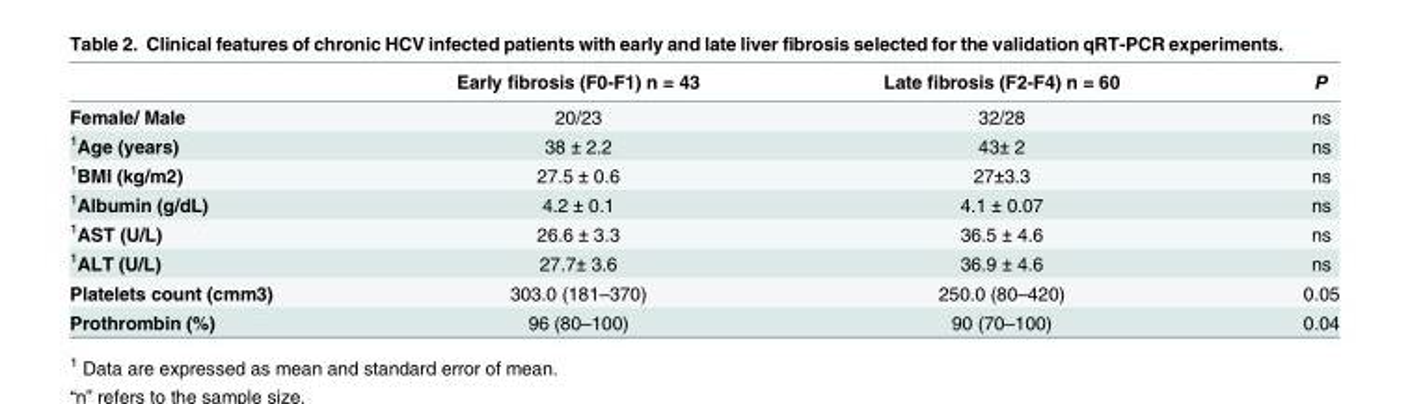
<table><thead><tr><td></td><td>Early fibrosis (F0-F1) n = 43</td><td>Late fibrosis (F2-F4) n = 60</td><td>P</td></tr></thead><tbody><tr><td>Female/ Male</td><td>20/23</td><td>32/28</td><td>ns</td></tr><tr><td><sup>1</sup>Age (years)</td><td>38 ± 2.2</td><td>43± 2</td><td>ns</td></tr><tr><td><sup>1</sup>BMI (kg/m2)</td><td>27.5 ± 0.6</td><td>27±3.3</td><td>ns</td></tr><tr><td><sup>1</sup>Albumin (g/dL)</td><td>4.2 ± 0.1</td><td>4.1 ± 0.07</td><td>ns</td></tr><tr><td><sup>1</sup>AST (U/L)</td><td>26.6 ± 3.3</td><td>36.5 ± 4.6</td><td>ns</td></tr><tr><td><sup>1</sup>ALT (U/L)</td><td>27.7± 3.6</td><td>36.9 ± 4.6</td><td>ns</td></tr><tr><td>Platelets count (cmm3)</td><td>303.0 (181–370)</td><td>250.0 (80–420)</td><td>0.05</td></tr><tr><td>Prothrombin (%)</td><td>96 (80–100)</td><td>90 (70–100)</td><td>0.04</td></tr></tbody></table>